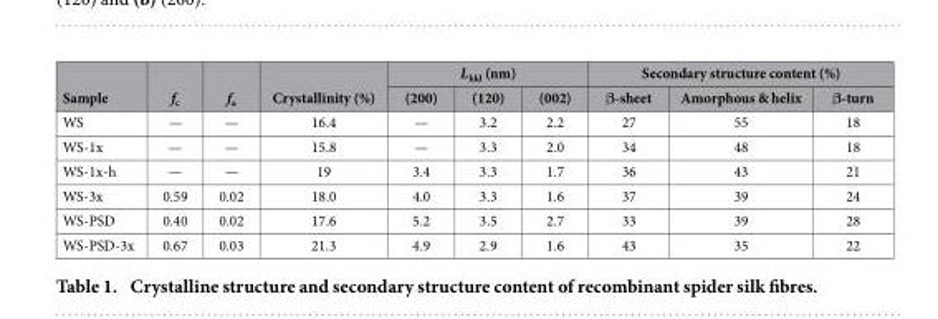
<table><thead><tr><td rowspan="2">Sample</td><td rowspan="2">f<sub>c</sub></td><td rowspan="2">f<sub>a</sub></td><td rowspan="2">Crystallinity (%)</td><td colspan="3">L<sub>hkl</sub> (nm)</td><td colspan="3">Secondary structure content (%)</td></tr><tr><td>(200)</td><td>(120)</td><td>(002)</td><td>β-sheet</td><td>Amorphous &amp; helix</td><td>β-turn</td></tr></thead><tbody><tr><td>WS</td><td>—</td><td>—</td><td>16.4</td><td>—</td><td>3.2</td><td>2.2</td><td>27</td><td>55</td><td>18</td></tr><tr><td>WS-1x</td><td>—</td><td>—</td><td>15.8</td><td>—</td><td>3.3</td><td>2.0</td><td>34</td><td>48</td><td>18</td></tr><tr><td>WS-1x-h</td><td>—</td><td>—</td><td>19</td><td>3.4</td><td>3.3</td><td>1.7</td><td>36</td><td>43</td><td>21</td></tr><tr><td>WS-3x</td><td>0.59</td><td>0.02</td><td>18.0</td><td>4.0</td><td>3.3</td><td>1.6</td><td>37</td><td>39</td><td>24</td></tr><tr><td>WS-PSD</td><td>0.40</td><td>0.02</td><td>17.6</td><td>5.2</td><td>3.5</td><td>2.7</td><td>33</td><td>39</td><td>28</td></tr><tr><td>WS-PSD-3x</td><td>0.67</td><td>0.03</td><td>21.3</td><td>4.9</td><td>2.9</td><td>1.6</td><td>43</td><td>35</td><td>22</td></tr></tbody></table>